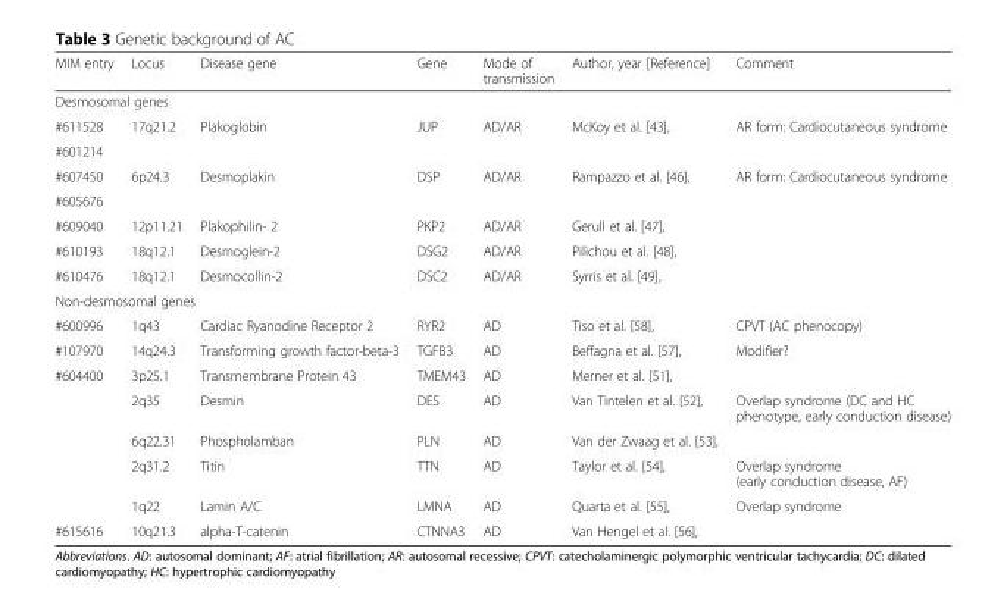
<table><thead><tr><td>MIM entry</td><td>Locus</td><td>Disease gene</td><td>Gene</td><td>Mode of transmission</td><td>Author, year [Reference]</td><td>Comment</td></tr></thead><tbody><tr><td colspan="7">Desmosomal genes</td></tr><tr><td>#611528</td><td rowspan="2">17q21.2</td><td rowspan="2">Plakoglobin</td><td rowspan="2">JUP</td><td rowspan="2">AD/AR</td><td rowspan="2">McKoy et al. [43],</td><td rowspan="2">AR form: Cardiocutaneous syndrome</td></tr><tr><td>#601214</td></tr><tr><td>#607450</td><td rowspan="2">6p24.3</td><td rowspan="2">Desmoplakin</td><td rowspan="2">DSP</td><td rowspan="2">AD/AR</td><td rowspan="2">Rampazzo et al. [46],</td><td rowspan="2">AR form: Cardiocutaneous syndrome</td></tr><tr><td>#605676</td></tr><tr><td>#609040</td><td>12p11.21</td><td>Plakophilin- 2</td><td>PKP2</td><td>AD/AR</td><td>Gerull et al. [47],</td><td></td></tr><tr><td>#610193</td><td>18q12.1</td><td>Desmoglein-2</td><td>DSG2</td><td>AD/AR</td><td>Pilichou et al. [48],</td><td></td></tr><tr><td>#610476</td><td>18q12.1</td><td>Desmocollin-2</td><td>DSC2</td><td>AD/AR</td><td>Syrris et al. [49],</td><td></td></tr><tr><td colspan="7">Non-desmosomal genes</td></tr><tr><td>#600996</td><td>1q43</td><td>Cardiac Ryanodine Receptor 2</td><td>RYR2</td><td>AD</td><td>Tiso et al. [58],</td><td>CPVT (AC phenocopy)</td></tr><tr><td>#107970</td><td>14q24.3</td><td>Transforming growth factor-beta-3</td><td>TGFB3</td><td>AD</td><td>Beffagna et al. [57],</td><td>Modifier?</td></tr><tr><td rowspan="5">#604400</td><td>3p25.1</td><td>Transmembrane Protein 43</td><td>TMEM43</td><td>AD</td><td>Merner et al. [51],</td><td></td></tr><tr><td>2q35</td><td>Desmin</td><td>DES</td><td>AD</td><td>Van Tintelen et al. [52],</td><td>Overlap syndrome (DC and HC phenotype, early conduction disease)</td></tr><tr><td>6q22.31</td><td>Phospholamban</td><td>PLN</td><td>AD</td><td>Van der Zwaag et al. [53],</td><td></td></tr><tr><td>2q31.2</td><td>Titin</td><td>TTN</td><td>AD</td><td>Taylor et al. [54],</td><td>Overlap syndrome (early conduction disease, AF)</td></tr><tr><td>1q22</td><td>Lamin A/C</td><td>LMNA</td><td>AD</td><td>Quarta et al. [55],</td><td>Overlap syndrome</td></tr><tr><td>#615616</td><td>10q21.3</td><td>alpha-T-catenin</td><td>CTNNA3</td><td>AD</td><td>Van Hengel et al. [56],</td><td></td></tr></tbody></table>